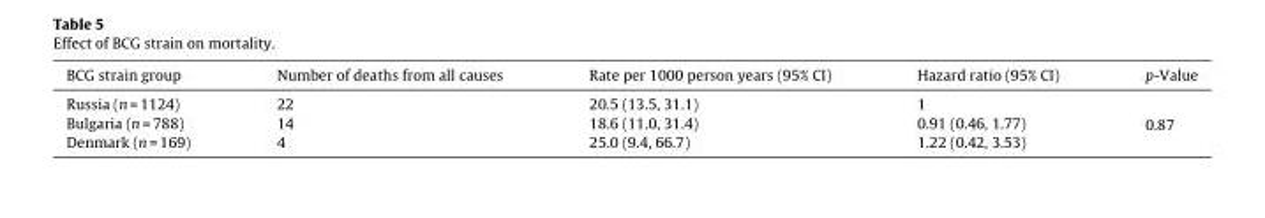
<table><thead><tr><td>BCG strain group</td><td>Number of deaths from all causes</td><td>Rate per 1000 person years (95% CI)</td><td>Hazard ratio (95% CI)</td><td>p-Value</td></tr></thead><tbody><tr><td>Russia (n = 1124)</td><td>22</td><td>20.5 (13.5, 31.1)</td><td>1</td><td rowspan="3">0.87</td></tr><tr><td>Bulgaria (n = 788)</td><td>14</td><td>18.6 (11.0, 31.4)</td><td>0.91 (0.46, 1.77)</td></tr><tr><td>Denmark (n = 169)</td><td>4</td><td>25.0 (9.4, 66.7)</td><td>1.22 (0.42, 3.53)</td></tr></tbody></table>